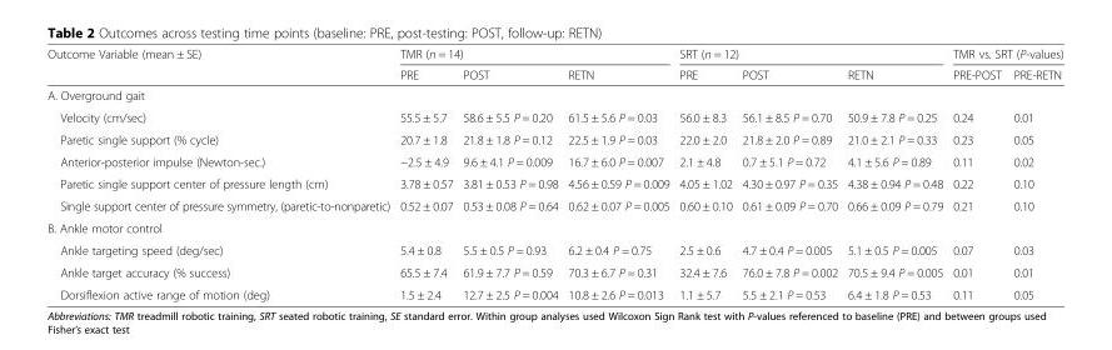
<table><thead><tr><td rowspan="2">Outcome Variable (mean ± SE)</td><td colspan="3">TMR (n = 14)</td><td colspan="3">SRT (n = 12)</td><td colspan="2">TMR vs. SRT (P-values)</td></tr><tr><td>PRE</td><td>POST</td><td>RETN</td><td>PRE</td><td>POST</td><td>RETN</td><td>PRE-POST</td><td>PRE-RETN</td></tr></thead><tbody><tr><td colspan="9">A. Overground gait</td></tr><tr><td>Velocity (cm/sec)</td><td>55.5 ± 5.7</td><td>58.6 ± 5.5 P = 0.20</td><td>61.5 ± 5.6 P = 0.03</td><td>56.0 ± 8.3</td><td>56.1 ± 8.5 P = 0.70</td><td>50.9 ± 7.8 P = 0.25</td><td>0.24</td><td>0.01</td></tr><tr><td>Paretic single support (% cycle)</td><td>20.7 ± 1.8</td><td>21.8 ± 1.8 P = 0.12</td><td>22.5 ± 1.9 P = 0.03</td><td>22.0 ± 2.0</td><td>21.8 ± 2.0 P = 0.89</td><td>21.0 ± 2.1 P = 0.33</td><td>0.23</td><td>0.05</td></tr><tr><td>Anterior-posterior impulse (Newton-sec.)</td><td>−2.5 ± 4.9</td><td>9.6 ± 4.1 P = 0.009</td><td>16.7 ± 6.0 P = 0.007</td><td>2.1 ± 4.8</td><td>0.7 ± 5.1 P = 0.72</td><td>4.1 ± 5.6 P = 0.89</td><td>0.11</td><td>0.02</td></tr><tr><td>Paretic single support center of pressure length (cm)</td><td>3.78 ± 0.57</td><td>3.81 ± 0.53 P = 0.98</td><td>4.56 ± 0.59 P = 0.009</td><td>4.05 ± 1.02</td><td>4.30 ± 0.97 P = 0.35</td><td>4.38 ± 0.94 P = 0.48</td><td>0.22</td><td>0.10</td></tr><tr><td>Single support center of pressure symmetry, (paretic-to-nonparetic)</td><td>0.52 ± 0.07</td><td>0.53 ± 0.08 P = 0.64</td><td>0.62 ± 0.07 P = 0.005</td><td>0.60 ± 0.10</td><td>0.61 ± 0.09 P = 0.70</td><td>0.66 ± 0.09 P = 0.79</td><td>0.21</td><td>0.10</td></tr><tr><td colspan="9">B. Ankle motor control</td></tr><tr><td>Ankle targeting speed (deg/sec)</td><td>5.4 ± 0.8</td><td>5.5 ± 0.5 P = 0.93</td><td>6.2 ± 0.4 P = 0.75</td><td>2.5 ± 0.6</td><td>4.7 ± 0.4 P = 0.005</td><td>5.1 ± 0.5 P = 0.005</td><td>0.07</td><td>0.03</td></tr><tr><td>Ankle target accuracy (% success)</td><td>65.5 ± 7.4</td><td>61.9 ± 7.7 P = 0.59</td><td>70.3 ± 6.7 P = 0.31</td><td>32.4 ± 7.6</td><td>76.0 ± 7.8 P = 0.002</td><td>70.5 ± 9.4 P = 0.005</td><td>0.01</td><td>0.01</td></tr><tr><td>Dorsiflexion active range of motion (deg)</td><td>1.5 ± 2.4</td><td>12.7 ± 2.5 P = 0.004</td><td>10.8 ± 2.6 P = 0.013</td><td>1.1 ± 5.7</td><td>5.5 ± 2.1 P = 0.53</td><td>6.4 ± 1.8 P = 0.53</td><td>0.11</td><td>0.05</td></tr></tbody></table>